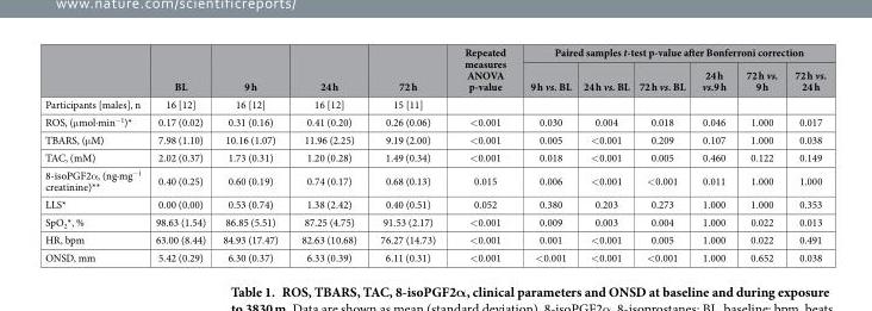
<table><thead><tr><td rowspan="2"></td><td rowspan="2">BL</td><td rowspan="2">9 h</td><td rowspan="2">24 h</td><td rowspan="2">72 h</td><td rowspan="2">Repeated measures ANOVA p-value</td><td colspan="6">Paired samples t-test p-value after Bonferroni correction</td></tr><tr><td>9 h vs. BL</td><td>24 h vs. BL</td><td>72 h vs. BL</td><td>24 h vs.9 h</td><td>72 h vs. 9 h</td><td>72 h vs. 24 h</td></tr></thead><tbody><tr><td>Participants [males], n</td><td>16 [12]</td><td>16 [12]</td><td>16 [12]</td><td>15 [11]</td><td></td><td></td><td></td><td></td><td></td><td></td><td></td></tr><tr><td>ROS, (μ mol∙min<sup>−1</sup>)*</td><td>0.17 (0.02)</td><td>0.31 (0.16)</td><td>0.41 (0.20)</td><td>0.26 (0.06)</td><td>&lt; 0.001</td><td>0.030</td><td>0.004</td><td>0.018</td><td>0.046</td><td>1.000</td><td>0.017</td></tr><tr><td>TBARS, (μ M)</td><td>7.98 (1.10)</td><td>10.16 (1.07)</td><td>11.96 (2.25)</td><td>9.19 (2.00)</td><td>&lt; 0.001</td><td>0.005</td><td>&lt; 0.001</td><td>0.209</td><td>0.107</td><td>1.000</td><td>0.038</td></tr><tr><td>TAC, (mM)</td><td>2.02 (0.37)</td><td>1.73 (0.31)</td><td>1.20 (0.28)</td><td>1.49 (0.34)</td><td>&lt; 0.001</td><td>0.018</td><td>&lt; 0.001</td><td>0.005</td><td>0.460</td><td>0.122</td><td>0.149</td></tr><tr><td>8-isoPGF2α , (ng∙mg<sup>−1</sup> creatinine)**</td><td>0.40 (0.25)</td><td>0.60 (0.19)</td><td>0.74 (0.17)</td><td>0.68 (0.13)</td><td>0.015</td><td>0.006</td><td>&lt; 0.001</td><td>&lt; 0.001</td><td>0.011</td><td>1.000</td><td>1.000</td></tr><tr><td>LLS*</td><td>0.00 (0.00)</td><td>0.53 (0.74)</td><td>1.38 (2.42)</td><td>0.40 (0.51)</td><td>0.052</td><td>0.380</td><td>0.203</td><td>0.273</td><td>1.000</td><td>1.000</td><td>0.353</td></tr><tr><td>SpO<sub>2</sub>*, %</td><td>98.63 (1.54)</td><td>86.85 (5.51)</td><td>87.25 (4.75)</td><td>91.53 (2.17)</td><td>&lt; 0.001</td><td>0.009</td><td>0.003</td><td>0.004</td><td>1.000</td><td>0.022</td><td>0.013</td></tr><tr><td>HR, bpm</td><td>63.00 (8.44)</td><td>84.93 (17.47)</td><td>82.63 (10.68)</td><td>76.27 (14.73)</td><td>&lt; 0.001</td><td>0.001</td><td>&lt; 0.001</td><td>0.005</td><td>1.000</td><td>0.022</td><td>0.491</td></tr><tr><td>ONSD, mm</td><td>5.42 (0.29)</td><td>6.30 (0.37)</td><td>6.33 (0.39)</td><td>6.11 (0.31)</td><td>&lt; 0.001</td><td>&lt; 0.001</td><td>&lt; 0.001</td><td>&lt; 0.001</td><td>1.000</td><td>0.652</td><td>0.038</td></tr></tbody></table>